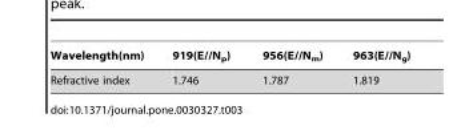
<table><thead><tr><td>Wavelength(nm)</td><td>919(E//N<sub>p</sub>)</td><td>956(E//N<sub>m</sub>)</td><td>963(E//N<sub>g</sub>)</td></tr></thead><tbody><tr><td>Refractive index</td><td>1.746</td><td>1.787</td><td>1.819</td></tr></tbody></table>